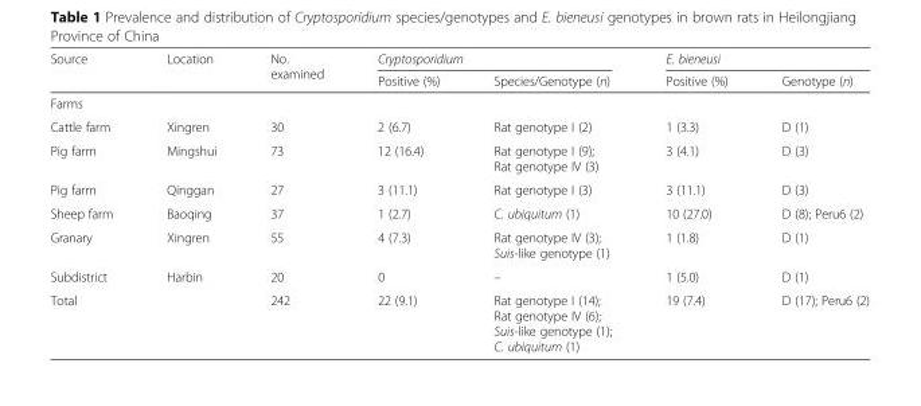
<table><thead><tr><td rowspan="2">Source</td><td rowspan="2">Location</td><td rowspan="2">No. examined</td><td colspan="2">Cryptosporidium</td><td colspan="2">E. bieneusi</td></tr><tr><td>Positive (%)</td><td>Species/Genotype (n)</td><td>Positive (%)</td><td>Genotype (n)</td></tr></thead><tbody><tr><td colspan="7">Farms</td></tr><tr><td>Cattle farm</td><td>Xingren</td><td>30</td><td>2 (6.7)</td><td>Rat genotype I (2)</td><td>1 (3.3)</td><td>D (1)</td></tr><tr><td>Pig farm</td><td>Mingshui</td><td>73</td><td>12 (16.4)</td><td>Rat genotype I (9); Rat genotype IV (3)</td><td>3 (4.1)</td><td>D (3)</td></tr><tr><td>Pig farm</td><td>Qinggan</td><td>27</td><td>3 (11.1)</td><td>Rat genotype I (3)</td><td>3 (11.1)</td><td>D (3)</td></tr><tr><td>Sheep farm</td><td>Baoqing</td><td>37</td><td>1 (2.7)</td><td>C. ubiquitum (1)</td><td>10 (27.0)</td><td>D (8); Peru6 (2)</td></tr><tr><td>Granary</td><td>Xingren</td><td>55</td><td>4 (7.3)</td><td>Rat genotype IV (3); Suis-like genotype (1)</td><td>1 (1.8)</td><td>D (1)</td></tr><tr><td>Subdistrict</td><td>Harbin</td><td>20</td><td>0</td><td>–</td><td>1 (5.0)</td><td>D (1)</td></tr><tr><td colspan="2">Total</td><td>242</td><td>22 (9.1)</td><td>Rat genotype I (14); Rat genotype IV (6); Suis-like genotype (1); C. ubiquitum (1)</td><td>19 (7.4)</td><td>D (17); Peru6 (2)</td></tr></tbody></table>